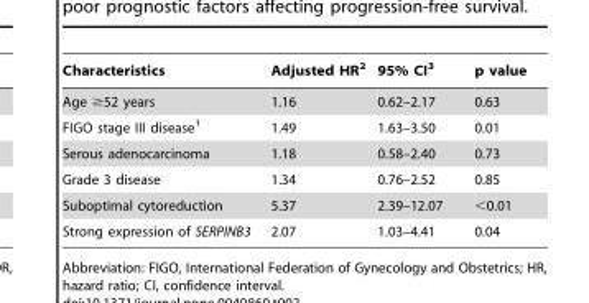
<table><thead><tr><td>Characteristics</td><td>Adjusted HR<sup>2</sup></td><td>95% CI<sup>3</sup></td><td>p value</td></tr></thead><tbody><tr><td>Age ≥52 years</td><td>1.16</td><td>0.62–2.17</td><td>0.63</td></tr><tr><td>FIGO stage III disease<sup>1</sup></td><td>1.49</td><td>1.63–3.50</td><td>0.01</td></tr><tr><td>Serous adenocarcinoma</td><td>1.18</td><td>0.58–2.40</td><td>0.73</td></tr><tr><td>Grade 3 disease</td><td>1.34</td><td>0.76–2.52</td><td>0.85</td></tr><tr><td>Suboptimal cytoreduction</td><td>5.37</td><td>2.39–12.07</td><td>&lt;0.01</td></tr><tr><td>Strong expression of SERPINB3</td><td>2.07</td><td>1.03–4.41</td><td>0.04</td></tr></tbody></table>